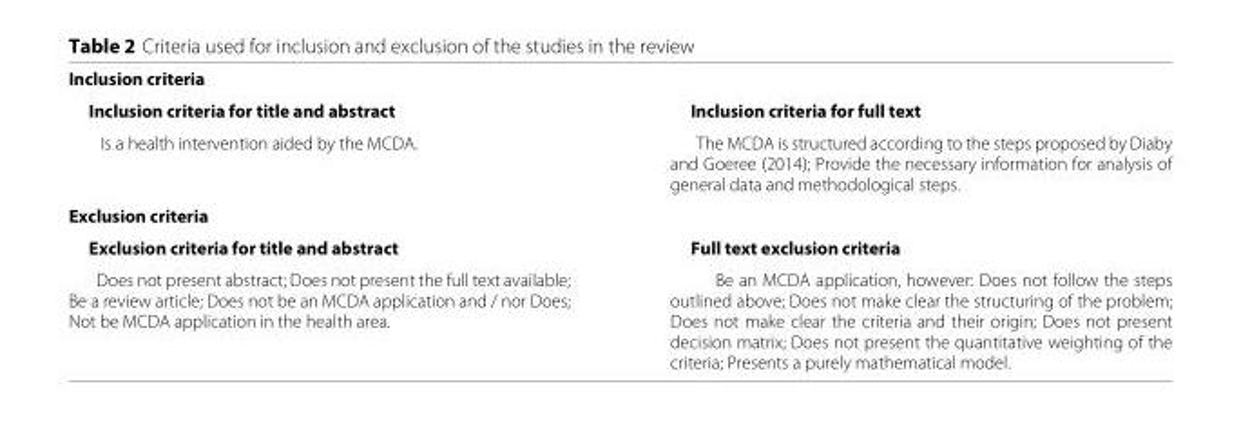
<table><tbody><tr><td colspan="2">Inclusion criteria</td></tr><tr><td>Inclusion criteria for title and abstract</td><td>Inclusion criteria for full text</td></tr><tr><td>Is a health intervention aided by the MCDA.</td><td>The MCDA is structured according to the steps proposed by Diaby and Goeree (2014); Provide the necessary information for analysis of general data and methodological steps.</td></tr><tr><td colspan="2">Exclusion criteria</td></tr><tr><td>Exclusion criteria for title and abstract</td><td>Full text exclusion criteria</td></tr><tr><td>Does not present abstract; Does not present the full text available; Be a review article; Does not be an MCDA application and / nor Does; Not be MCDA application in the health area.</td><td>Be an MCDA application, however: Does not follow the steps outlined above; Does not make clear the structuring of the problem; Does not make clear the criteria and their origin; Does not present decision matrix; Does not present the quantitative weighting of the criteria; Presents a purely mathematical model.</td></tr></tbody></table>